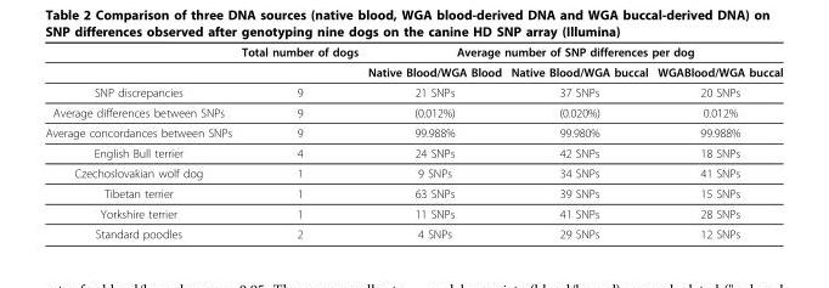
<table><thead><tr><td rowspan="2"></td><td rowspan="2">Total number of dogs</td><td colspan="3">Average number of SNP differences per dog</td></tr><tr><td>Native Blood/WGA Blood</td><td>Native Blood/WGA buccal</td><td>WGABlood/WGA buccal</td></tr></thead><tbody><tr><td>SNP discrepancies</td><td>9</td><td>21 SNPs</td><td>37 SNPs</td><td>20 SNPs</td></tr><tr><td>Average differences between SNPs</td><td>9</td><td>(0.012%)</td><td>(0.020%)</td><td>0.012%</td></tr><tr><td>Average concordances between SNPs</td><td>9</td><td>99.988%</td><td>99.980%</td><td>99.988%</td></tr><tr><td>English Bull terrier</td><td>4</td><td>24 SNPs</td><td>42 SNPs</td><td>18 SNPs</td></tr><tr><td>Czechoslovakian wolf dog</td><td>1</td><td>9 SNPs</td><td>34 SNPs</td><td>41 SNPs</td></tr><tr><td>Tibetan terrier</td><td>1</td><td>63 SNPs</td><td>39 SNPs</td><td>15 SNPs</td></tr><tr><td>Yorkshire terrier</td><td>1</td><td>11 SNPs</td><td>41 SNPs</td><td>28 SNPs</td></tr><tr><td>Standard poodles</td><td>2</td><td>4 SNPs</td><td>29 SNPs</td><td>12 SNPs</td></tr></tbody></table>